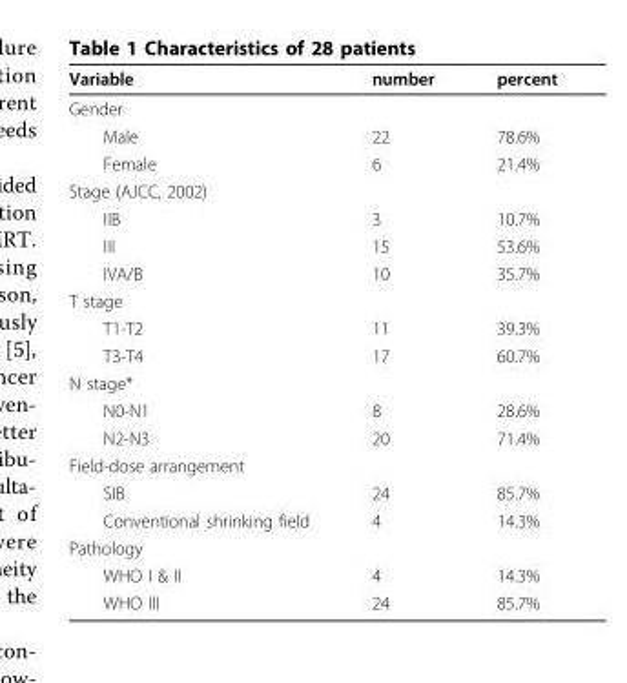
<table><thead><tr><td>Variable</td><td>number</td><td>percent</td></tr></thead><tbody><tr><td colspan="3">Gender</td></tr><tr><td>Male</td><td>22</td><td>78.6%</td></tr><tr><td>Female</td><td>6</td><td>21.4%</td></tr><tr><td colspan="3">Stage (AJCC, 2002)</td></tr><tr><td>IIB</td><td>3</td><td>10.7%</td></tr><tr><td>III</td><td>15</td><td>53.6%</td></tr><tr><td>IVA/B</td><td>10</td><td>35.7%</td></tr><tr><td colspan="3">T stage</td></tr><tr><td>T1-T2</td><td>11</td><td>39.3%</td></tr><tr><td>T3-T4</td><td>17</td><td>60.7%</td></tr><tr><td colspan="3">N stage*</td></tr><tr><td>N0-N1</td><td>8</td><td>28.6%</td></tr><tr><td>N2-N3</td><td>20</td><td>71.4%</td></tr><tr><td colspan="3">Field-dose arrangement</td></tr><tr><td>SIB</td><td>24</td><td>85.7%</td></tr><tr><td>Conventional shrinking field</td><td>4</td><td>14.3%</td></tr><tr><td colspan="3">Pathology</td></tr><tr><td>WHO I &amp; II</td><td>4</td><td>14.3%</td></tr><tr><td>WHO III</td><td>24</td><td>85.7%</td></tr></tbody></table>